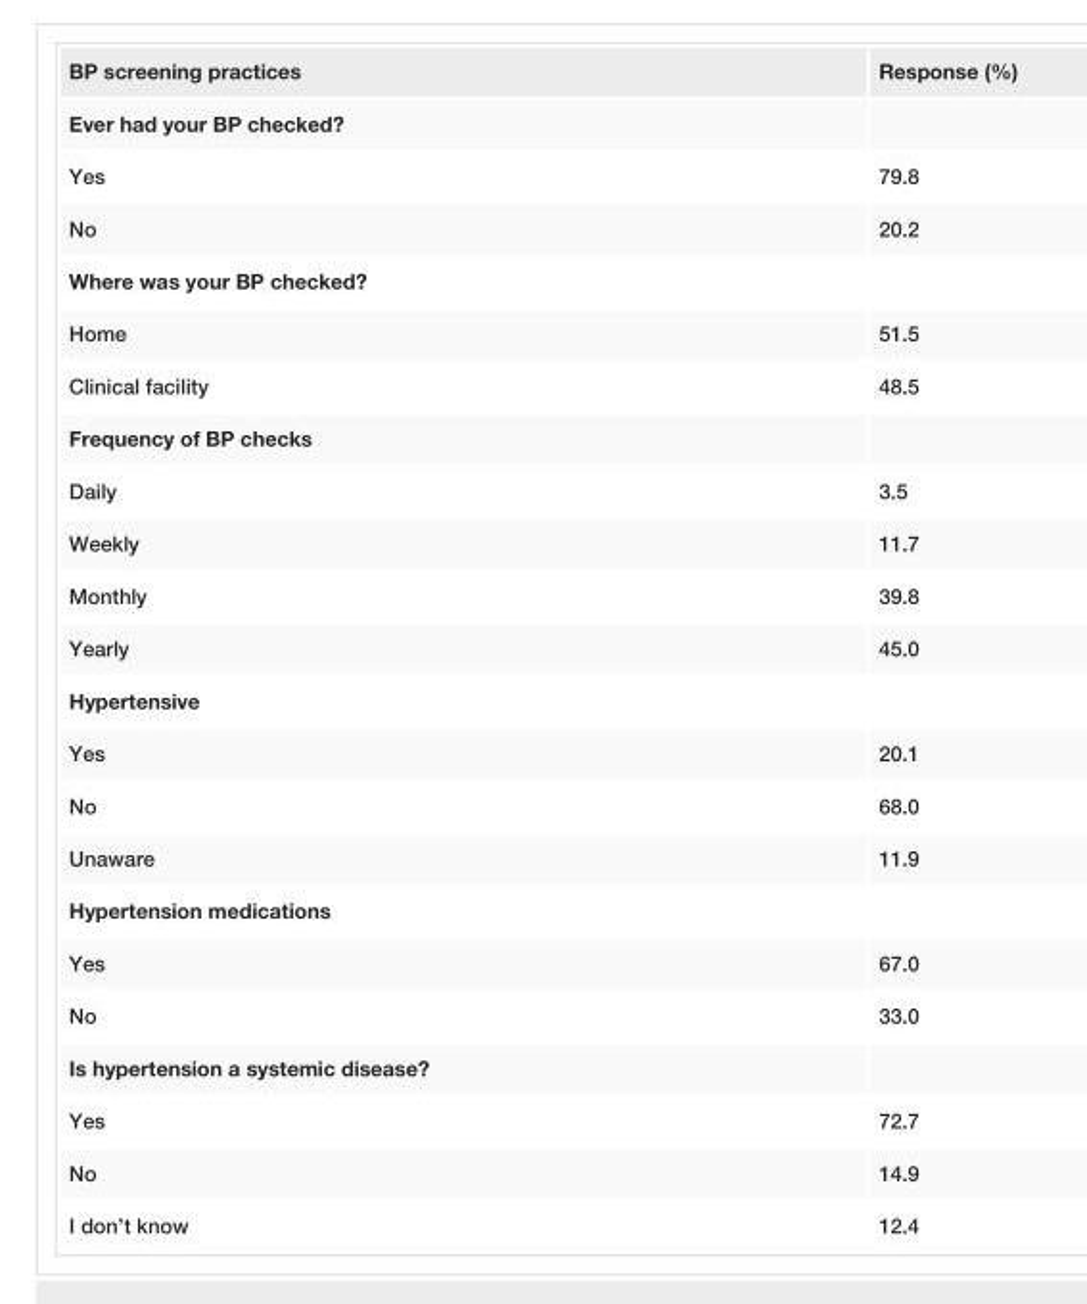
<table><tbody><tr><td>BP screening practices</td><td>Response (%)</td></tr><tr><td colspan="2">Ever had your BP checked?</td></tr><tr><td>Yes</td><td>79.8</td></tr><tr><td>No</td><td>20.2</td></tr><tr><td colspan="2">Where was your BP checked?</td></tr><tr><td>Home</td><td>51.5</td></tr><tr><td>Clinical facility</td><td>48.5</td></tr><tr><td colspan="2">Frequency of BP checks</td></tr><tr><td>Daily</td><td>3.5</td></tr><tr><td>Weekly</td><td>11.7</td></tr><tr><td>Monthly</td><td>39.8</td></tr><tr><td>Yearly</td><td>45.0</td></tr><tr><td colspan="2">Hypertensive</td></tr><tr><td>Yes</td><td>20.1</td></tr><tr><td>No</td><td>68.0</td></tr><tr><td>Unaware</td><td>11.9</td></tr><tr><td colspan="2">Hypertension medications</td></tr><tr><td>Yes</td><td>67.0</td></tr><tr><td>No</td><td>33.0</td></tr><tr><td colspan="2">Is hypertension a systemic disease?</td></tr><tr><td>Yes</td><td>72.7</td></tr><tr><td>No</td><td>14.9</td></tr><tr><td>I don’t know</td><td>12.4</td></tr></tbody></table>